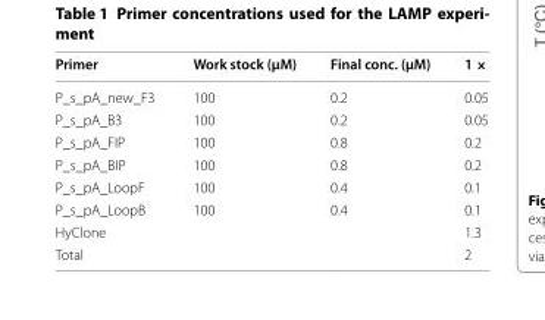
<table><thead><tr><td>Primer</td><td>Work stock (µM)</td><td>Final conc. (µM)</td><td>1 ×</td></tr></thead><tbody><tr><td>P_s_pA_new_F3</td><td>100</td><td>0.2</td><td>0.05</td></tr><tr><td>P_s_pA_B3</td><td>100</td><td>0.2</td><td>0.05</td></tr><tr><td>P_s_pA_FIP</td><td>100</td><td>0.8</td><td>0.2</td></tr><tr><td>P_s_pA_BIP</td><td>100</td><td>0.8</td><td>0.2</td></tr><tr><td>P_s_pA_LoopF</td><td>100</td><td>0.4</td><td>0.1</td></tr><tr><td>P_s_pA_LoopB</td><td>100</td><td>0.4</td><td>0.1</td></tr><tr><td>HyClone</td><td></td><td></td><td>1.3</td></tr><tr><td>Total</td><td></td><td></td><td>2</td></tr></tbody></table>